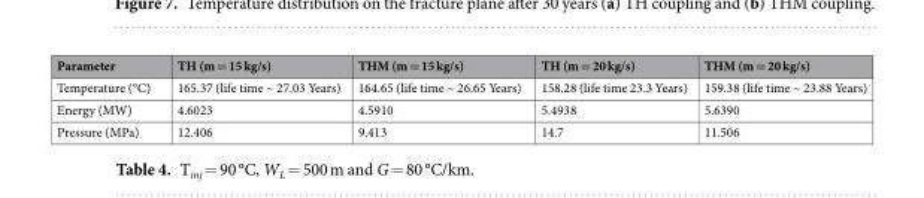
<table><thead><tr><td>Parameter</td><td>TH (m = 15 kg/s)</td><td>THM (m = 15 kg/s)</td><td>TH (m = 20 kg/s)</td><td>THM (m = 20 kg/s)</td></tr></thead><tbody><tr><td>Temperature (°C)</td><td>165.37 (life time ~ 27.03 Years)</td><td>164.65 (life time ~ 26.65 Years)</td><td>158.28 (life time 23.3 Years)</td><td>159.38 (life time ~ 23.88 Years)</td></tr><tr><td>Energy (MW)</td><td>4.6023</td><td>4.5910</td><td>5.4938</td><td>5.6390</td></tr><tr><td>Pressure (MPa)</td><td>12.406</td><td>9.413</td><td>14.7</td><td>11.506</td></tr></tbody></table>